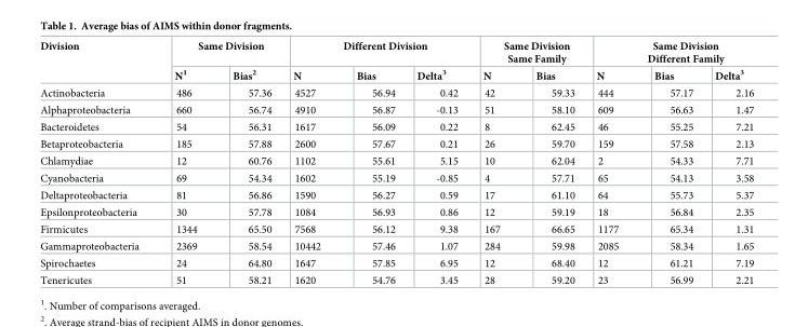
<table><thead><tr><td rowspan="2">Division</td><td colspan="2">Same Division</td><td colspan="3">Different Division</td><td colspan="2">Same Division Same Family</td><td colspan="3">Same Division Different Family</td></tr><tr><td>N<sup>1</sup></td><td>Bias<sup>2</sup></td><td>N</td><td>Bias</td><td>Delta<sup>3</sup></td><td>N</td><td>Bias</td><td>N</td><td>Bias</td><td>Delta<sup>3</sup></td></tr></thead><tbody><tr><td>Actinobacteria</td><td>486</td><td>57.36</td><td>4527</td><td>56.94</td><td>0.42</td><td>42</td><td>59.33</td><td>444</td><td>57.17</td><td>2.16</td></tr><tr><td>Alphaproteobacteria</td><td>660</td><td>56.74</td><td>4910</td><td>56.87</td><td>-0.13</td><td>51</td><td>58.10</td><td>609</td><td>56.63</td><td>1.47</td></tr><tr><td>Bacteroidetes</td><td>54</td><td>56.31</td><td>1617</td><td>56.09</td><td>0.22</td><td>8</td><td>62.45</td><td>46</td><td>55.25</td><td>7.21</td></tr><tr><td>Betaproteobacteria</td><td>185</td><td>57.88</td><td>2600</td><td>57.67</td><td>0.21</td><td>26</td><td>59.70</td><td>159</td><td>57.58</td><td>2.13</td></tr><tr><td>Chlamydiae</td><td>12</td><td>60.76</td><td>1102</td><td>55.61</td><td>5.15</td><td>10</td><td>62.04</td><td>2</td><td>54.33</td><td>7.71</td></tr><tr><td>Cyanobacteria</td><td>69</td><td>54.34</td><td>1602</td><td>55.19</td><td>-0.85</td><td>4</td><td>57.71</td><td>65</td><td>54.13</td><td>3.58</td></tr><tr><td>Deltaproteobacteria</td><td>81</td><td>56.86</td><td>1590</td><td>56.27</td><td>0.59</td><td>17</td><td>61.10</td><td>64</td><td>55.73</td><td>5.37</td></tr><tr><td>Epsilonproteobacteria</td><td>30</td><td>57.78</td><td>1084</td><td>56.93</td><td>0.86</td><td>12</td><td>59.19</td><td>18</td><td>56.84</td><td>2.35</td></tr><tr><td>Firmicutes</td><td>1344</td><td>65.50</td><td>7568</td><td>56.12</td><td>9.38</td><td>167</td><td>66.65</td><td>1177</td><td>65.34</td><td>1.31</td></tr><tr><td>Gammaproteobacteria</td><td>2369</td><td>58.54</td><td>10442</td><td>57.46</td><td>1.07</td><td>284</td><td>59.98</td><td>2085</td><td>58.34</td><td>1.65</td></tr><tr><td>Spirochaetes</td><td>24</td><td>64.80</td><td>1647</td><td>57.85</td><td>6.95</td><td>12</td><td>68.40</td><td>12</td><td>61.21</td><td>7.19</td></tr><tr><td>Tenericutes</td><td>51</td><td>58.21</td><td>1620</td><td>54.76</td><td>3.45</td><td>28</td><td>59.20</td><td>23</td><td>56.99</td><td>2.21</td></tr></tbody></table>